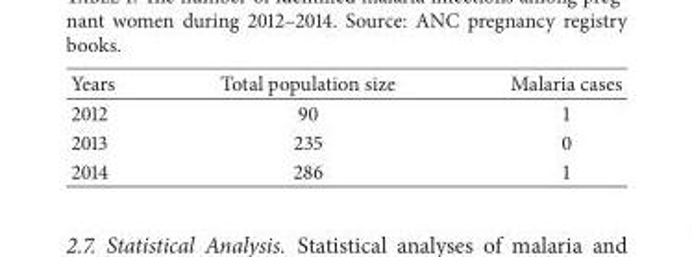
<table><thead><tr><td>Years</td><td>Total population size</td><td>Malaria cases</td></tr></thead><tbody><tr><td>2012</td><td>90</td><td>1</td></tr><tr><td>2013</td><td>235</td><td>0</td></tr><tr><td>2014</td><td>286</td><td>1</td></tr></tbody></table>